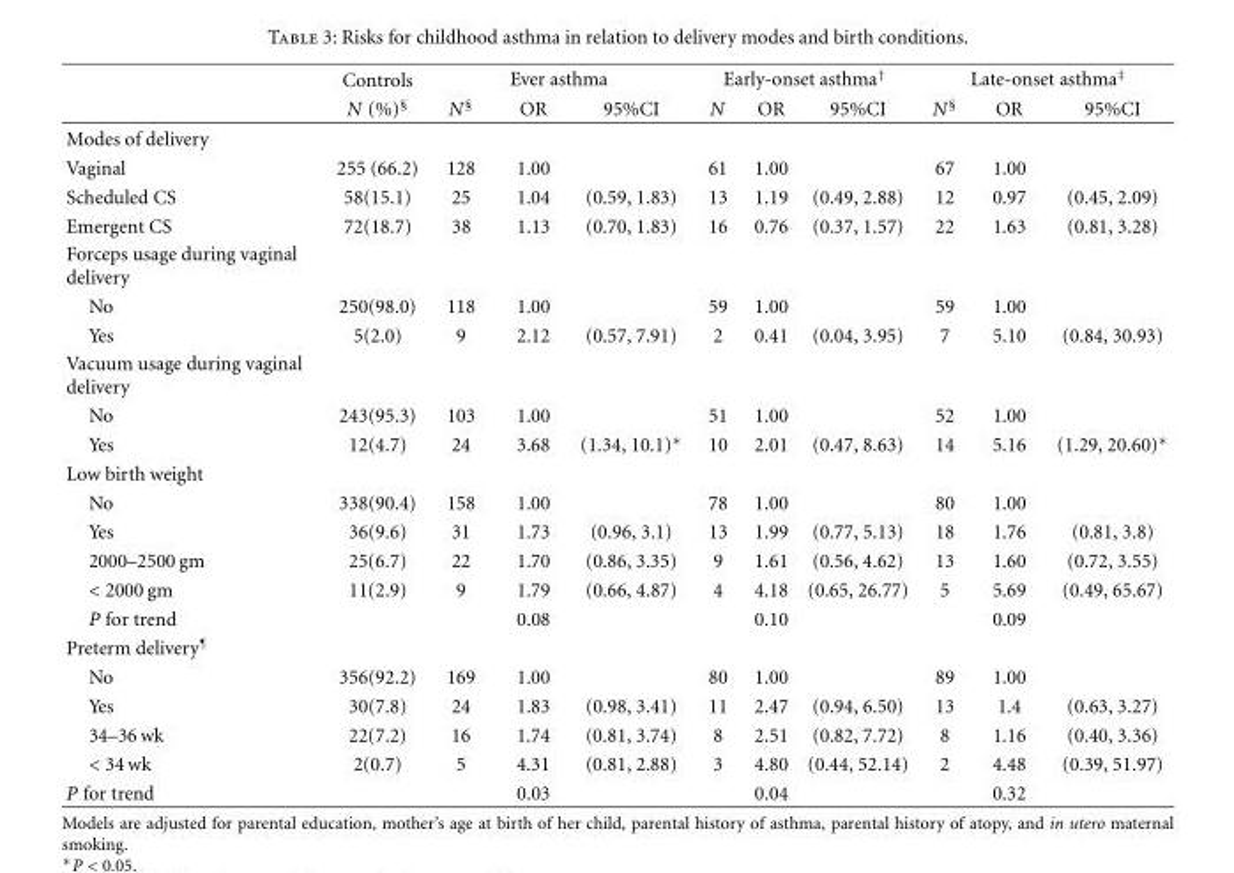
<table><thead><tr><td rowspan="2"></td><td rowspan="2">Controls N (%)<sup>§</sup></td><td colspan="3">Ever asthma</td><td colspan="3">Early-onset asthma<sup>†</sup></td><td colspan="3">Late-onset asthma<sup>‡</sup></td></tr><tr><td>N<sup>§</sup></td><td>OR</td><td>95%CI</td><td>N</td><td>OR</td><td>95%CI</td><td>N<sup>§</sup></td><td>OR</td><td>95%CI</td></tr></thead><tbody><tr><td colspan="11">Modes of delivery</td></tr><tr><td>Vaginal</td><td>255 (66.2)</td><td>128</td><td>1.00</td><td></td><td>61</td><td>1.00</td><td></td><td>67</td><td>1.00</td><td></td></tr><tr><td>Scheduled CS</td><td>58(15.1)</td><td>25</td><td>1.04</td><td>(0.59, 1.83)</td><td>13</td><td>1.19</td><td>(0.49, 2.88)</td><td>12</td><td>0.97</td><td>(0.45, 2.09)</td></tr><tr><td>Emergent CS</td><td>72(18.7)</td><td>38</td><td>1.13</td><td>(0.70, 1.83)</td><td>16</td><td>0.76</td><td>(0.37, 1.57)</td><td>22</td><td>1.63</td><td>(0.81, 3.28)</td></tr><tr><td colspan="11">Forceps usage during vaginal delivery</td></tr><tr><td>No</td><td>250(98.0)</td><td>118</td><td>1.00</td><td></td><td>59</td><td>1.00</td><td></td><td>59</td><td>1.00</td><td></td></tr><tr><td>Yes</td><td>5(2.0)</td><td>9</td><td>2.12</td><td>(0.57, 7.91)</td><td>2</td><td>0.41</td><td>(0.04, 3.95)</td><td>7</td><td>5.10</td><td>(0.84, 30.93)</td></tr><tr><td colspan="11">Vacuum usage during vaginal delivery</td></tr><tr><td>No</td><td>243(95.3)</td><td>103</td><td>1.00</td><td></td><td>51</td><td>1.00</td><td></td><td>52</td><td>1.00</td><td></td></tr><tr><td>Yes</td><td>12(4.7)</td><td>24</td><td>3.68</td><td>(1.34, 10.1)∗</td><td>10</td><td>2.01</td><td>(0.47, 8.63)</td><td>14</td><td>5.16</td><td>(1.29, 20.60)∗</td></tr><tr><td colspan="11">Low birth weight</td></tr><tr><td>No</td><td>338(90.4)</td><td>158</td><td>1.00</td><td></td><td>78</td><td>1.00</td><td></td><td>80</td><td>1.00</td><td></td></tr><tr><td>Yes</td><td>36(9.6)</td><td>31</td><td>1.73</td><td>(0.96, 3.1)</td><td>13</td><td>1.99</td><td>(0.77, 5.13)</td><td>18</td><td>1.76</td><td>(0.81, 3.8)</td></tr><tr><td>2000–2500 gm</td><td>25(6.7)</td><td>22</td><td>1.70</td><td>(0.86, 3.35)</td><td>9</td><td>1.61</td><td>(0.56, 4.62)</td><td>13</td><td>1.60</td><td>(0.72, 3.55)</td></tr><tr><td>&lt; 2000 gm</td><td>11(2.9)</td><td>9</td><td>1.79</td><td>(0.66, 4.87)</td><td>4</td><td>4.18</td><td>(0.65, 26.77)</td><td>5</td><td>5.69</td><td>(0.49, 65.67)</td></tr><tr><td>P for trend</td><td></td><td></td><td>0.08</td><td></td><td></td><td>0.10</td><td></td><td></td><td>0.09</td><td></td></tr><tr><td colspan="11">Preterm delivery<sup>¶</sup></td></tr><tr><td>No</td><td>356(92.2)</td><td>169</td><td>1.00</td><td></td><td>80</td><td>1.00</td><td></td><td>89</td><td>1.00</td><td></td></tr><tr><td>Yes</td><td>30(7.8)</td><td>24</td><td>1.83</td><td>(0.98, 3.41)</td><td>11</td><td>2.47</td><td>(0.94, 6.50)</td><td>13</td><td>1.4</td><td>(0.63, 3.27)</td></tr><tr><td>34–36 wk</td><td>22(7.2)</td><td>16</td><td>1.74</td><td>(0.81, 3.74)</td><td>8</td><td>2.51</td><td>(0.82, 7.72)</td><td>8</td><td>1.16</td><td>(0.40, 3.36)</td></tr><tr><td>&lt; 34 wk</td><td>2(0.7)</td><td>5</td><td>4.31</td><td>(0.81, 2.88)</td><td>3</td><td>4.80</td><td>(0.44, 52.14)</td><td>2</td><td>4.48</td><td>(0.39, 51.97)</td></tr><tr><td>P for trend</td><td></td><td></td><td>0.03</td><td></td><td></td><td>0.04</td><td></td><td></td><td>0.32</td><td></td></tr></tbody></table>